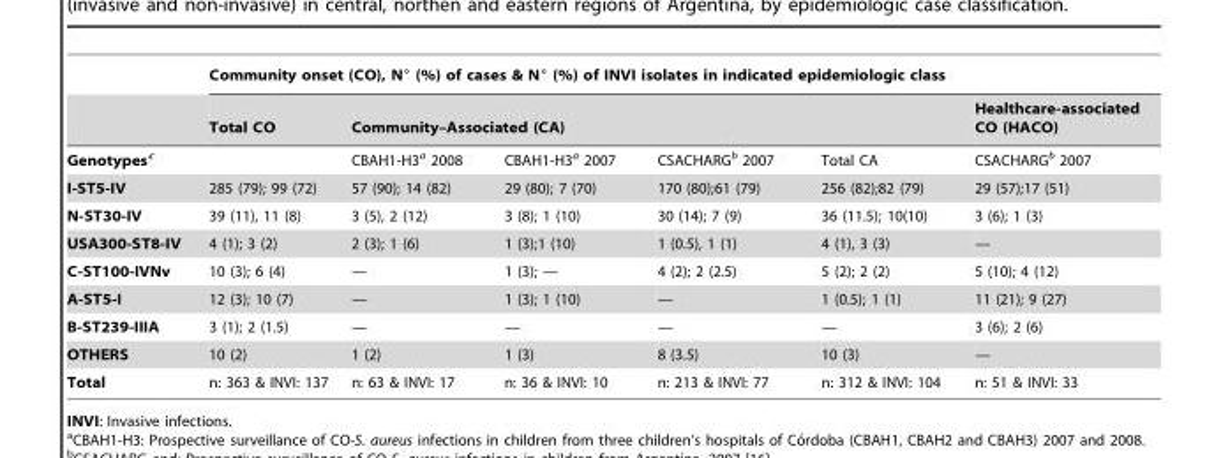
<table><thead><tr><td rowspan="3">Genotypesc</td><td colspan="6">Community onset (CO), N° (%) of cases &amp; N° (%) of INVI isolates in indicated epidemiologic class</td></tr><tr><td rowspan="2">Total CO</td><td colspan="4">Community–Associated (CA)</td><td rowspan="2">Healthcare-associated CO (HACO) CSACHARG<sup>b</sup> 2007</td></tr><tr><td>CBAH1-H3<sup>a</sup> 2008</td><td>CBAH1-H3<sup>a</sup> 2007</td><td>CSACHARG<sup>b</sup> 2007</td><td>Total CA</td></tr></thead><tbody><tr><td>I-ST5-IV</td><td>285 (79); 99 (72)</td><td>57 (90); 14 (82)</td><td>29 (80); 7 (70)</td><td>170 (80);61 (79)</td><td>256 (82);82 (79)</td><td>29 (57);17 (51)</td></tr><tr><td>N-ST30-IV</td><td>39 (11), 11 (8)</td><td>3 (5), 2 (12)</td><td>3 (8); 1 (10)</td><td>30 (14); 7 (9)</td><td>36 (11.5); 10(10)</td><td>3 (6); 1 (3)</td></tr><tr><td>USA300-ST8-IV</td><td>4 (1); 3 (2)</td><td>2 (3); 1 (6)</td><td>1 (3);1 (10)</td><td>1 (0.5), 1 (1)</td><td>4 (1), 3 (3)</td><td>—</td></tr><tr><td>C-ST100-IVNv</td><td>10 (3); 6 (4)</td><td>—</td><td>1 (3); —</td><td>4 (2); 2 (2.5)</td><td>5 (2); 2 (2)</td><td>5 (10); 4 (12)</td></tr><tr><td>A-ST5-I</td><td>12 (3); 10 (7)</td><td>—</td><td>1 (3); 1 (10)</td><td>—</td><td>1 (0.5); 1 (1)</td><td>11 (21); 9 (27)</td></tr><tr><td>B-ST239-IIIA</td><td>3 (1); 2 (1.5)</td><td>—</td><td>—</td><td>—</td><td>—</td><td>3 (6); 2 (6)</td></tr><tr><td>OTHERS</td><td>10 (2)</td><td>1 (2)</td><td>1 (3)</td><td>8 (3.5)</td><td>10 (3)</td><td>—</td></tr><tr><td>Total</td><td>n: 363 &amp; INVI: 137</td><td>n: 63 &amp; INVI: 17</td><td>n: 36 &amp; INVI: 10</td><td>n: 213 &amp; INVI: 77</td><td>n: 312 &amp; INVI: 104</td><td>n: 51 &amp; INVI: 33</td></tr></tbody></table>